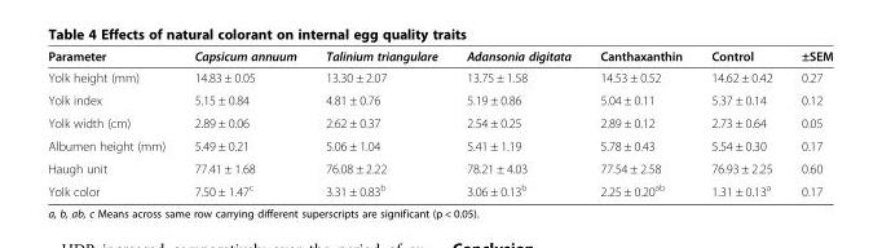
<table><thead><tr><td>Parameter</td><td>Capsicum annuum</td><td>Talinium triangulare</td><td>Adansonia digitata</td><td>Canthaxanthin</td><td>Control</td><td>±SEM</td></tr></thead><tbody><tr><td>Yolk height (mm)</td><td>14.83 ± 0.05</td><td>13.30 ± 2.07</td><td>13.75 ± 1.58</td><td>14.53 ± 0.52</td><td>14.62 ± 0.42</td><td>0.27</td></tr><tr><td>Yolk index</td><td>5.15 ± 0.84</td><td>4.81 ± 0.76</td><td>5.19 ± 0.86</td><td>5.04 ± 0.11</td><td>5.37 ± 0.14</td><td>0.12</td></tr><tr><td>Yolk width (cm)</td><td>2.89 ± 0.06</td><td>2.62 ± 0.37</td><td>2.54 ± 0.25</td><td>2.89 ± 0.12</td><td>2.73 ± 0.64</td><td>0.05</td></tr><tr><td>Albumen height (mm)</td><td>5.49 ± 0.21</td><td>5.06 ± 1.04</td><td>5.41 ± 1.19</td><td>5.78 ± 0.43</td><td>5.54 ± 0.30</td><td>0.17</td></tr><tr><td>Haugh unit</td><td>77.41 ± 1.68</td><td>76.08 ± 2.22</td><td>78.21 ± 4.03</td><td>77.54 ± 2.58</td><td>76.93 ± 2.25</td><td>0.60</td></tr><tr><td>Yolk color</td><td>7.50 ± 1.47<sup>c</sup></td><td>3.31 ± 0.83<sup>b</sup></td><td>3.06 ± 0.13<sup>b</sup></td><td>2.25 ± 0.20<sup>ab</sup></td><td>1.31 ± 0.13<sup>a</sup></td><td>0.17</td></tr></tbody></table>